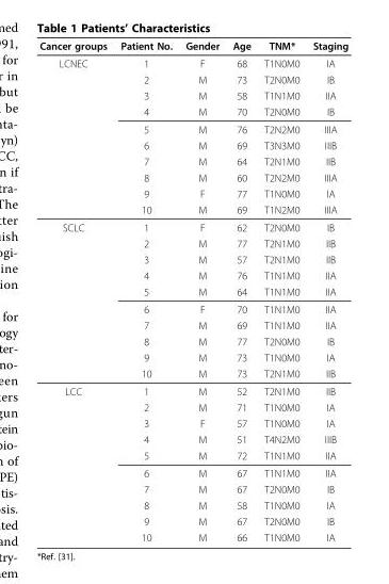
<table><thead><tr><td>Cancer groups</td><td>Patient No.</td><td>Gender</td><td>Age</td><td>TNM*</td><td>Staging</td></tr></thead><tbody><tr><td rowspan="10">LCNEC</td><td>1</td><td>F</td><td>68</td><td>T1N0M0</td><td>IA</td></tr><tr><td>2</td><td>M</td><td>73</td><td>T2N0M0</td><td>IB</td></tr><tr><td>3</td><td>M</td><td>58</td><td>T1N1M0</td><td>IIA</td></tr><tr><td>4</td><td>M</td><td>70</td><td>T2N0M0</td><td>IB</td></tr><tr><td>5</td><td>M</td><td>76</td><td>T2N2M0</td><td>IIIA</td></tr><tr><td>6</td><td>M</td><td>69</td><td>T3N3M0</td><td>IIIB</td></tr><tr><td>7</td><td>M</td><td>64</td><td>T2N1M0</td><td>IIB</td></tr><tr><td>8</td><td>M</td><td>60</td><td>T2N2M0</td><td>IIIA</td></tr><tr><td>9</td><td>F</td><td>77</td><td>T1N0M0</td><td>IA</td></tr><tr><td>10</td><td>M</td><td>69</td><td>T1N2M0</td><td>IIIA</td></tr><tr><td rowspan="10">SCLC</td><td>1</td><td>F</td><td>62</td><td>T2N0M0</td><td>IB</td></tr><tr><td>2</td><td>M</td><td>77</td><td>T2N1M0</td><td>IIB</td></tr><tr><td>3</td><td>M</td><td>57</td><td>T2N1M0</td><td>IIB</td></tr><tr><td>4</td><td>M</td><td>76</td><td>T1N1M0</td><td>IIA</td></tr><tr><td>5</td><td>M</td><td>64</td><td>T1N1M0</td><td>IIA</td></tr><tr><td>6</td><td>F</td><td>70</td><td>T1N1M0</td><td>IIA</td></tr><tr><td>7</td><td>M</td><td>69</td><td>T1N1M0</td><td>IIA</td></tr><tr><td>8</td><td>M</td><td>77</td><td>T2N0M0</td><td>IB</td></tr><tr><td>9</td><td>M</td><td>73</td><td>T1N0M0</td><td>IA</td></tr><tr><td>10</td><td>M</td><td>73</td><td>T2N1M0</td><td>IIB</td></tr><tr><td rowspan="10">LCC</td><td>1</td><td>M</td><td>52</td><td>T2N1M0</td><td>IIB</td></tr><tr><td>2</td><td>M</td><td>71</td><td>T1N0M0</td><td>IA</td></tr><tr><td>3</td><td>F</td><td>57</td><td>T1N0M0</td><td>IA</td></tr><tr><td>4</td><td>M</td><td>51</td><td>T4N2M0</td><td>IIIB</td></tr><tr><td>5</td><td>M</td><td>72</td><td>T1N1M0</td><td>IIA</td></tr><tr><td>6</td><td>M</td><td>67</td><td>T1N1M0</td><td>IIA</td></tr><tr><td>7</td><td>M</td><td>67</td><td>T2N0M0</td><td>IB</td></tr><tr><td>8</td><td>M</td><td>58</td><td>T1N0M0</td><td>IA</td></tr><tr><td>9</td><td>M</td><td>67</td><td>T2N0M0</td><td>IB</td></tr><tr><td>10</td><td>M</td><td>66</td><td>T1N0M0</td><td>IA</td></tr></tbody></table>